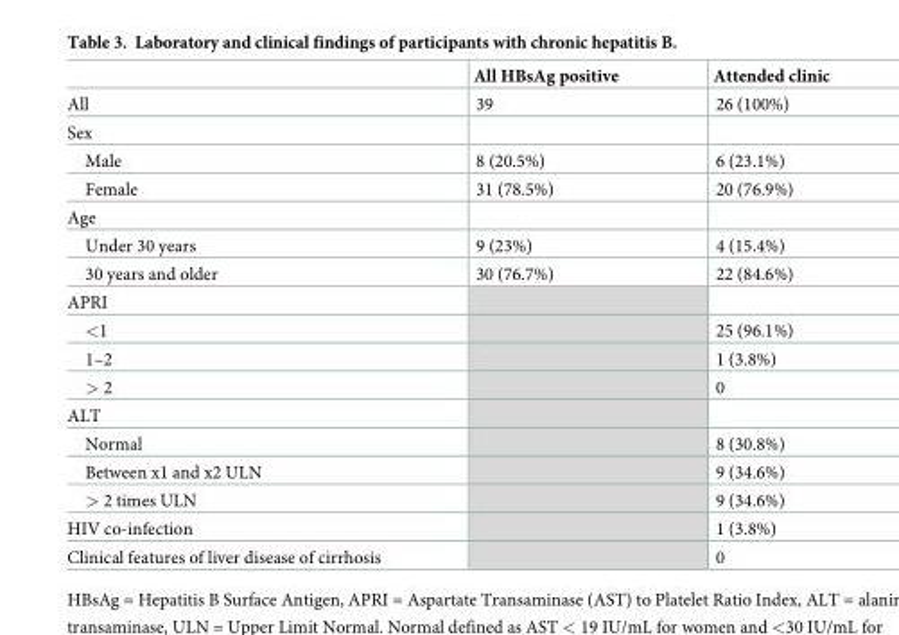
<table><thead><tr><td></td><td>All HBsAg positive</td><td>Attended clinic</td></tr></thead><tbody><tr><td>All</td><td>39</td><td>26 (100%)</td></tr><tr><td colspan="3">Sex</td></tr><tr><td>Male</td><td>8 (20.5%)</td><td>6 (23.1%)</td></tr><tr><td>Female</td><td>31 (78.5%)</td><td>20 (76.9%)</td></tr><tr><td colspan="3">Age</td></tr><tr><td>Under 30 years</td><td>9 (23%)</td><td>4 (15.4%)</td></tr><tr><td>30 years and older</td><td>30 (76.7%)</td><td>22 (84.6%)</td></tr><tr><td colspan="3">APRI</td></tr><tr><td>&lt;1</td><td></td><td>25 (96.1%)</td></tr><tr><td>1–2</td><td></td><td>1 (3.8%)</td></tr><tr><td>&gt; 2</td><td></td><td>0</td></tr><tr><td colspan="3">ALT</td></tr><tr><td>Normal</td><td></td><td>8 (30.8%)</td></tr><tr><td>Between x1 and x2 ULN</td><td></td><td>9 (34.6%)</td></tr><tr><td>&gt; 2 times ULN</td><td></td><td>9 (34.6%)</td></tr><tr><td>HIV co-infection</td><td></td><td>1 (3.8%)</td></tr><tr><td>Clinical features of liver disease of cirrhosis</td><td></td><td>0</td></tr></tbody></table>